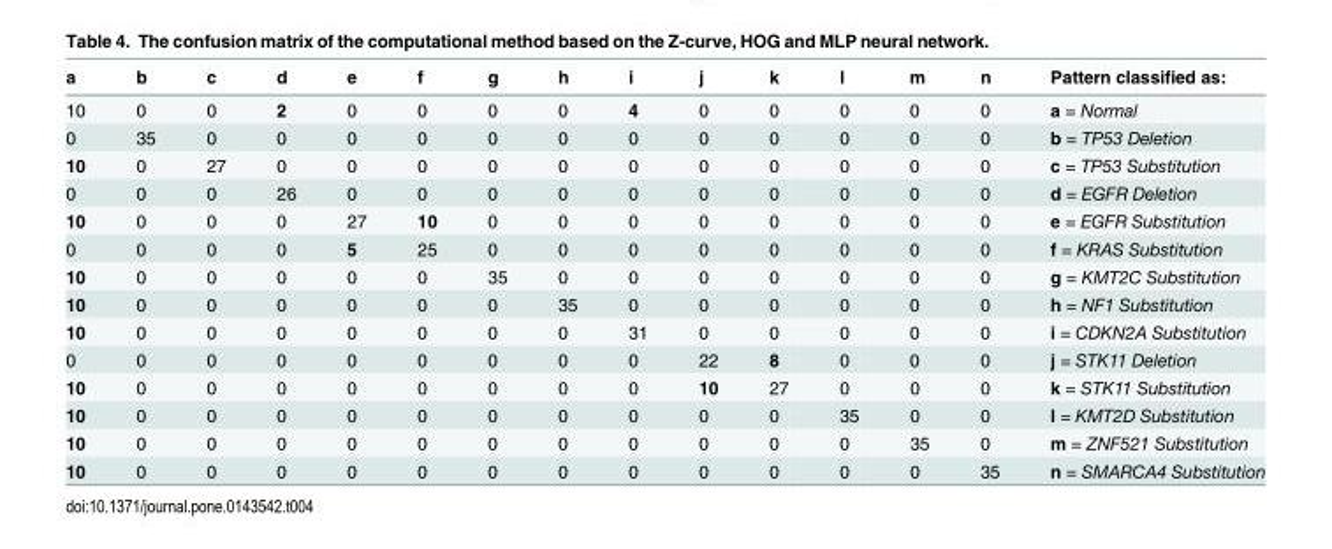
<table><thead><tr><td>a</td><td>b</td><td>c</td><td>d</td><td>e</td><td>f</td><td>g</td><td>h</td><td>i</td><td>j</td><td>k</td><td>l</td><td>m</td><td>n</td><td>Pattern classified as:</td></tr></thead><tbody><tr><td>10</td><td>0</td><td>0</td><td>2</td><td>0</td><td>0</td><td>0</td><td>0</td><td>4</td><td>0</td><td>0</td><td>0</td><td>0</td><td>0</td><td>a = Normal</td></tr><tr><td>0</td><td>35</td><td>0</td><td>0</td><td>0</td><td>0</td><td>0</td><td>0</td><td>0</td><td>0</td><td>0</td><td>0</td><td>0</td><td>0</td><td>b = TP53 Deletion</td></tr><tr><td>10</td><td>0</td><td>27</td><td>0</td><td>0</td><td>0</td><td>0</td><td>0</td><td>0</td><td>0</td><td>0</td><td>0</td><td>0</td><td>0</td><td>c = TP53 Substitution</td></tr><tr><td>0</td><td>0</td><td>0</td><td>26</td><td>0</td><td>0</td><td>0</td><td>0</td><td>0</td><td>0</td><td>0</td><td>0</td><td>0</td><td>0</td><td>d = EGFR Deletion</td></tr><tr><td>10</td><td>0</td><td>0</td><td>0</td><td>27</td><td>10</td><td>0</td><td>0</td><td>0</td><td>0</td><td>0</td><td>0</td><td>0</td><td>0</td><td>e = EGFR Substitution</td></tr><tr><td>0</td><td>0</td><td>0</td><td>0</td><td>5</td><td>25</td><td>0</td><td>0</td><td>0</td><td>0</td><td>0</td><td>0</td><td>0</td><td>0</td><td>f = KRAS Substitution</td></tr><tr><td>10</td><td>0</td><td>0</td><td>0</td><td>0</td><td>0</td><td>35</td><td>0</td><td>0</td><td>0</td><td>0</td><td>0</td><td>0</td><td>0</td><td>g = KMT2C Substitution</td></tr><tr><td>10</td><td>0</td><td>0</td><td>0</td><td>0</td><td>0</td><td>0</td><td>35</td><td>0</td><td>0</td><td>0</td><td>0</td><td>0</td><td>0</td><td>h = NF1 Substitution</td></tr><tr><td>10</td><td>0</td><td>0</td><td>0</td><td>0</td><td>0</td><td>0</td><td>0</td><td>31</td><td>0</td><td>0</td><td>0</td><td>0</td><td>0</td><td>i = CDKN2A Substitution</td></tr><tr><td>0</td><td>0</td><td>0</td><td>0</td><td>0</td><td>0</td><td>0</td><td>0</td><td>0</td><td>22</td><td>8</td><td>0</td><td>0</td><td>0</td><td>j = STK11 Deletion</td></tr><tr><td>10</td><td>0</td><td>0</td><td>0</td><td>0</td><td>0</td><td>0</td><td>0</td><td>0</td><td>10</td><td>27</td><td>0</td><td>0</td><td>0</td><td>k = STK11 Substitution</td></tr><tr><td>10</td><td>0</td><td>0</td><td>0</td><td>0</td><td>0</td><td>0</td><td>0</td><td>0</td><td>0</td><td>0</td><td>35</td><td>0</td><td>0</td><td>l = KMT2D Substitution</td></tr><tr><td>10</td><td>0</td><td>0</td><td>0</td><td>0</td><td>0</td><td>0</td><td>0</td><td>0</td><td>0</td><td>0</td><td>0</td><td>35</td><td>0</td><td>m = ZNF521 Substitution</td></tr><tr><td>10</td><td>0</td><td>0</td><td>0</td><td>0</td><td>0</td><td>0</td><td>0</td><td>0</td><td>0</td><td>0</td><td>0</td><td>0</td><td>35</td><td>n = SMARCA4 Substitution</td></tr></tbody></table>